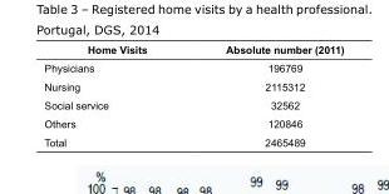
<table><thead><tr><td>Home Visits</td><td>Absolute number (2011)</td></tr></thead><tbody><tr><td>Physicians</td><td>196769</td></tr><tr><td>Nursing</td><td>2115312</td></tr><tr><td>Social service</td><td>32562</td></tr><tr><td>Others</td><td>120846</td></tr><tr><td>Total</td><td>2465489</td></tr></tbody></table>